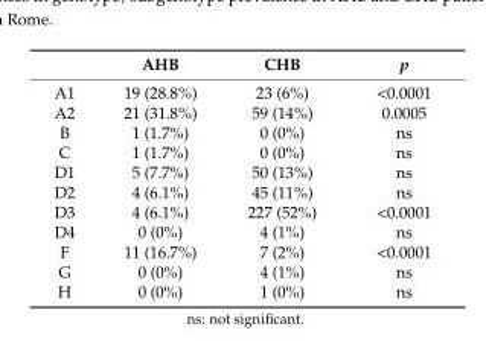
<table><thead><tr><td></td><td>AHB</td><td>CHB</td><td>p</td></tr></thead><tbody><tr><td>A1</td><td>19 (28.8%)</td><td>23 (6%)</td><td>&lt;0.0001</td></tr><tr><td>A2</td><td>21 (31.8%)</td><td>59 (14%)</td><td>0.0005</td></tr><tr><td>B</td><td>1 (1.7%)</td><td>0 (0%)</td><td>ns</td></tr><tr><td>C</td><td>1 (1.7%)</td><td>0 (0%)</td><td>ns</td></tr><tr><td>D1</td><td>5 (7.7%)</td><td>50 (13%)</td><td>ns</td></tr><tr><td>D2</td><td>4 (6.1%)</td><td>45 (11%)</td><td>ns</td></tr><tr><td>D3</td><td>4 (6.1%)</td><td>227 (52%)</td><td>&lt;0.0001</td></tr><tr><td>D4</td><td>0 (0%)</td><td>4 (1%)</td><td>ns</td></tr><tr><td>F</td><td>11 (16.7%)</td><td>7 (2%)</td><td>&lt;0.0001</td></tr><tr><td>G</td><td>0 (0%)</td><td>4 (1%)</td><td>ns</td></tr><tr><td>H</td><td>0 (0%)</td><td>1 (0%)</td><td>ns</td></tr></tbody></table>